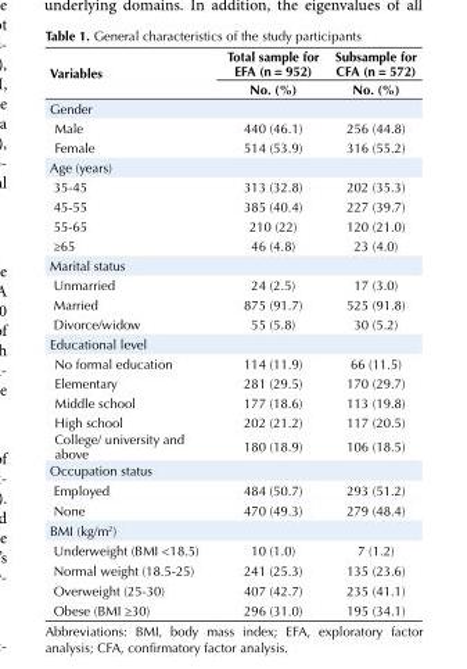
<table><tbody><tr><td rowspan="2">Variables</td><td>Total sample for EFA (n = 952)</td><td>Subsample for CFA (n = 572)</td></tr><tr><td>No. (%)</td><td>No. (%)</td></tr><tr><td colspan="3">Gender</td></tr><tr><td>Male</td><td>440 (46.1)</td><td>256 (44.8)</td></tr><tr><td>Female</td><td>514 (53.9)</td><td>316 (55.2)</td></tr><tr><td colspan="3">Age (years)</td></tr><tr><td>35-45</td><td>313 (32.8)</td><td>202 (35.3)</td></tr><tr><td>45-55</td><td>385 (40.4)</td><td>227 (39.7)</td></tr><tr><td>55-65</td><td>210 (22)</td><td>120 (21.0)</td></tr><tr><td>≥65</td><td>46 (4.8)</td><td>23 (4.0)</td></tr><tr><td colspan="3">Marital status</td></tr><tr><td>Unmarried</td><td>24 (2.5)</td><td>17 (3.0)</td></tr><tr><td>Married</td><td>875 (91.7)</td><td>525 (91.8)</td></tr><tr><td>Divorce/widow</td><td>55 (5.8)</td><td>30 (5.2)</td></tr><tr><td colspan="3">Educational level</td></tr><tr><td>No formal education</td><td>114 (11.9)</td><td>66 (11.5)</td></tr><tr><td>Elementary</td><td>281 (29.5)</td><td>170 (29.7)</td></tr><tr><td>Middle school</td><td>177 (18.6)</td><td>113 (19.8)</td></tr><tr><td>High school</td><td>202 (21.2)</td><td>117 (20.5)</td></tr><tr><td>College/ university and above</td><td>180 (18.9)</td><td>106 (18.5)</td></tr><tr><td colspan="3">Occupation status</td></tr><tr><td>Employed</td><td>484 (50.7)</td><td>293 (51.2)</td></tr><tr><td>None</td><td>470 (49.3)</td><td>279 (48.4)</td></tr><tr><td colspan="3">BMI (kg/m<sup>2</sup>)</td></tr><tr><td>Underweight (BMI &lt;18.5)</td><td>10 (1.0)</td><td>7 (1.2)</td></tr><tr><td>Normal weight (18.5-25)</td><td>241 (25.3)</td><td>135 (23.6)</td></tr><tr><td>Overweight (25-30)</td><td>407 (42.7)</td><td>235 (41.1)</td></tr><tr><td>Obese (BMI ≥30)</td><td>296 (31.0)</td><td>195 (34.1)</td></tr></tbody></table>